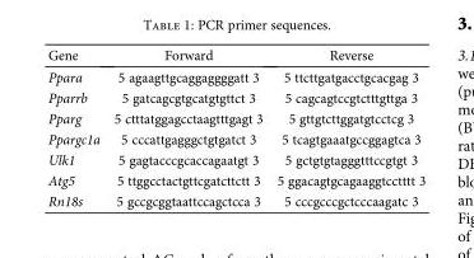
<table><thead><tr><td>Gene</td><td>Forward</td><td>Reverse</td></tr></thead><tbody><tr><td>Ppara</td><td>5 agaagttgcaggaggggatt 3</td><td>5 ttcttgatgacctgcacgag 3</td></tr><tr><td>Pparrb</td><td>5 gatcagcgtgcatgtgttct 3</td><td>5 cagcagtccgtctttgttga 3</td></tr><tr><td>Pparg</td><td>5 ctttatggagcctaagtttgagt 3</td><td>5 gttgtcttggatgtcctcg 3</td></tr><tr><td>Ppargc1a</td><td>5 cccattgagggctgtgatct 3</td><td>5 tcagtgaaatgccggagtca 3</td></tr><tr><td>Ulk1</td><td>5 gagtacccgcaccagaatgt 3</td><td>5 gctgtgtagggtttccgtgt 3</td></tr><tr><td>Atg5</td><td>5 ttggcctactgttcgatcttctt 3</td><td>5 ggacagtgcagaaggtcctttt 3</td></tr><tr><td>Rn18s</td><td>5 gccgcggtaattccagctcca 3</td><td>5 cccgcccgctcccaagatc 3</td></tr></tbody></table>